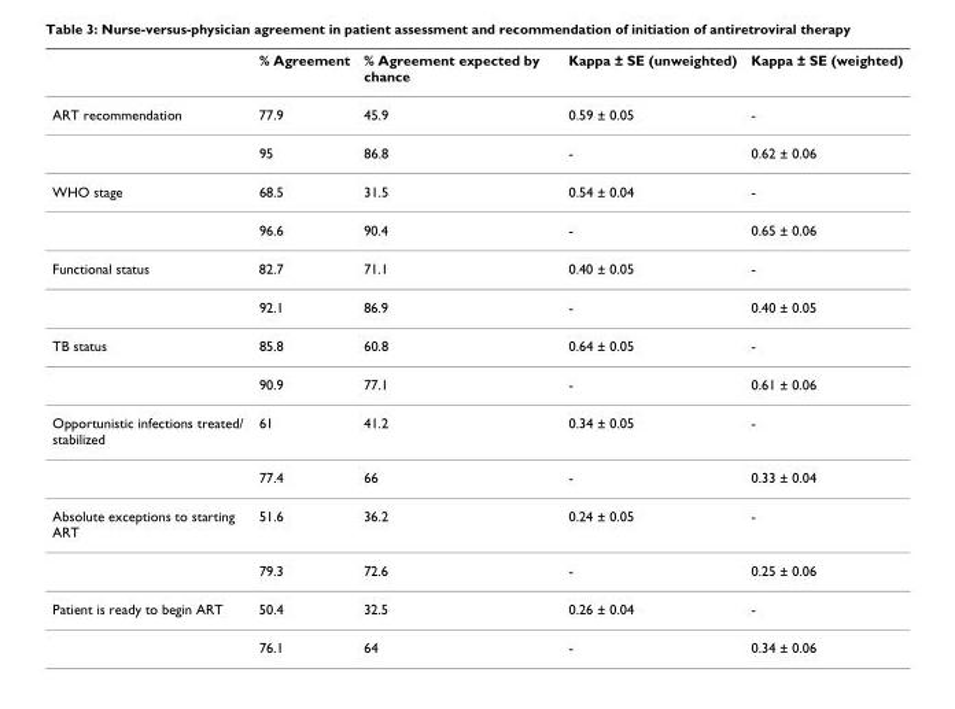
<table><thead><tr><td></td><td>% Agreement</td><td>% Agreement expected by chance</td><td>Kappa ± SE (unweighted)</td><td>Kappa ± SE (weighted)</td></tr></thead><tbody><tr><td rowspan="2">ART recommendation</td><td>77.9</td><td>45.9</td><td>0.59 ± 0.05</td><td>-</td></tr><tr><td>95</td><td>86.8</td><td>-</td><td>0.62 ± 0.06</td></tr><tr><td rowspan="2">WHO stage</td><td>68.5</td><td>31.5</td><td>0.54 ± 0.04</td><td>-</td></tr><tr><td>96.6</td><td>90.4</td><td>-</td><td>0.65 ± 0.06</td></tr><tr><td rowspan="2">Functional status</td><td>82.7</td><td>71.1</td><td>0.40 ± 0.05</td><td>-</td></tr><tr><td>92.1</td><td>86.9</td><td>-</td><td>0.40 ± 0.05</td></tr><tr><td rowspan="2">TB status</td><td>85.8</td><td>60.8</td><td>0.64 ± 0.05</td><td>-</td></tr><tr><td>90.9</td><td>77.1</td><td>-</td><td>0.61 ± 0.06</td></tr><tr><td rowspan="2">Opportunistic infections treated/ stabilized</td><td>61</td><td>41.2</td><td>0.34 ± 0.05</td><td>-</td></tr><tr><td>77.4</td><td>66</td><td>-</td><td>0.33 ± 0.04</td></tr><tr><td rowspan="2">Absolute exceptions to starting ART</td><td>51.6</td><td>36.2</td><td>0.24 ± 0.05</td><td>-</td></tr><tr><td>79.3</td><td>72.6</td><td>-</td><td>0.25 ± 0.06</td></tr><tr><td rowspan="2">Patient is ready to begin ART</td><td>50.4</td><td>32.5</td><td>0.26 ± 0.04</td><td>-</td></tr><tr><td>76.1</td><td>64</td><td>-</td><td>0.34 ± 0.06</td></tr></tbody></table>